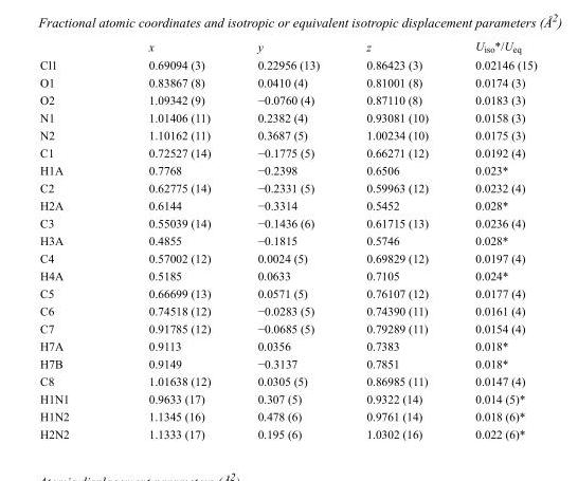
<table><thead><tr><td></td><td>x</td><td>y</td><td>z</td><td>U<sub>iso</sub>*/U<sub>eq</sub></td></tr></thead><tbody><tr><td>Cl1</td><td>0.69094 (3)</td><td>0.22956 (13)</td><td>0.86423 (3)</td><td>0.02146 (15)</td></tr><tr><td>O1</td><td>0.83867 (8)</td><td>0.0410 (4)</td><td>0.81001 (8)</td><td>0.0174 (3)</td></tr><tr><td>O2</td><td>1.09342 (9)</td><td>−0.0760 (4)</td><td>0.87110 (8)</td><td>0.0183 (3)</td></tr><tr><td>N1</td><td>1.01406 (11)</td><td>0.2382 (4)</td><td>0.93081 (10)</td><td>0.0158 (3)</td></tr><tr><td>N2</td><td>1.10162 (11)</td><td>0.3687 (5)</td><td>1.00234 (10)</td><td>0.0175 (3)</td></tr><tr><td>C1</td><td>0.72527 (14)</td><td>−0.1775 (5)</td><td>0.66271 (12)</td><td>0.0192 (4)</td></tr><tr><td>H1A</td><td>0.7768</td><td>−0.2398</td><td>0.6506</td><td>0.023*</td></tr><tr><td>C2</td><td>0.62775 (14)</td><td>−0.2331 (5)</td><td>0.59963 (12)</td><td>0.0232 (4)</td></tr><tr><td>H2A</td><td>0.6144</td><td>−0.3314</td><td>0.5452</td><td>0.028*</td></tr><tr><td>C3</td><td>0.55039 (14)</td><td>−0.1436 (6)</td><td>0.61715 (13)</td><td>0.0236 (4)</td></tr><tr><td>H3A</td><td>0.4855</td><td>−0.1815</td><td>0.5746</td><td>0.028*</td></tr><tr><td>C4</td><td>0.57002 (12)</td><td>0.0024 (5)</td><td>0.69829 (12)</td><td>0.0197 (4)</td></tr><tr><td>H4A</td><td>0.5185</td><td>0.0633</td><td>0.7105</td><td>0.024*</td></tr><tr><td>C5</td><td>0.66699 (13)</td><td>0.0571 (5)</td><td>0.76107 (12)</td><td>0.0177 (4)</td></tr><tr><td>C6</td><td>0.74518 (12)</td><td>−0.0283 (5)</td><td>0.74390 (11)</td><td>0.0161 (4)</td></tr><tr><td>C7</td><td>0.91785 (12)</td><td>−0.0685 (5)</td><td>0.79289 (11)</td><td>0.0154 (4)</td></tr><tr><td>H7A</td><td>0.9113</td><td>0.0356</td><td>0.7383</td><td>0.018*</td></tr><tr><td>H7B</td><td>0.9149</td><td>−0.3137</td><td>0.7851</td><td>0.018*</td></tr><tr><td>C8</td><td>1.01638 (12)</td><td>0.0305 (5)</td><td>0.86985 (11)</td><td>0.0147 (4)</td></tr><tr><td>H1N1</td><td>0.9633 (17)</td><td>0.307 (5)</td><td>0.9322 (14)</td><td>0.014 (5)*</td></tr><tr><td>H1N2</td><td>1.1345 (16)</td><td>0.478 (6)</td><td>0.9761 (14)</td><td>0.018 (6)*</td></tr><tr><td>H2N2</td><td>1.1333 (17)</td><td>0.195 (6)</td><td>1.0302 (16)</td><td>0.022 (6)*</td></tr></tbody></table>